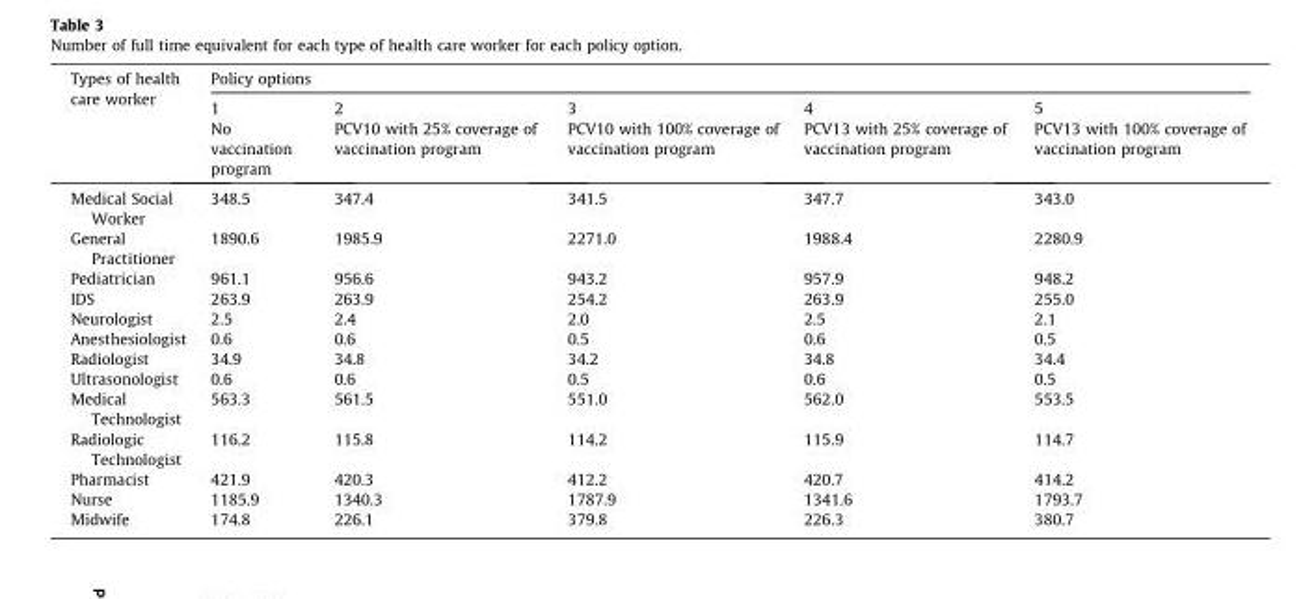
<table><thead><tr><td rowspan="3">Types of health care worker</td><td colspan="5">Policy options</td></tr><tr><td rowspan="2">1 No vaccination program</td><td rowspan="2">2 PCV10 with 25% coverage of vaccination program</td><td rowspan="2">3 PCV10 with 100% coverage of vaccination program</td><td rowspan="2">4 PCV13 with 25% coverage of vaccination program</td><td rowspan="2">5 PCV13 with 100% coverage of vaccination program</td></tr><tr></tr></thead><tbody><tr><td>Medical Social Worker</td><td>348.5</td><td>347.4</td><td>341.5</td><td>347.7</td><td>343.0</td></tr><tr><td>General Practitioner</td><td>1890.6</td><td>1985.9</td><td>2271.0</td><td>1988.4</td><td>2280.9</td></tr><tr><td>Pediatrician</td><td>961.1</td><td>956.6</td><td>943.2</td><td>957.9</td><td>948.2</td></tr><tr><td>IDS</td><td>263.9</td><td>263.9</td><td>254.2</td><td>263.9</td><td>255.0</td></tr><tr><td>Neurologist</td><td>2.5</td><td>2.4</td><td>2.0</td><td>2.5</td><td>2.1</td></tr><tr><td>Anesthesiologist</td><td>0.6</td><td>0.6</td><td>0.5</td><td>0.6</td><td>0.5</td></tr><tr><td>Radiologist</td><td>34.9</td><td>34.8</td><td>34.2</td><td>34.8</td><td>34.4</td></tr><tr><td>Ultrasonologist</td><td>0.6</td><td>0.6</td><td>0.5</td><td>0.6</td><td>0.5</td></tr><tr><td>Medical Technologist</td><td>563.3</td><td>561.5</td><td>551.0</td><td>562.0</td><td>553.5</td></tr><tr><td>Radiologic Technologist</td><td>116.2</td><td>115.8</td><td>114.2</td><td>115.9</td><td>114.7</td></tr><tr><td>Pharmacist</td><td>421.9</td><td>420.3</td><td>412.2</td><td>420.7</td><td>414.2</td></tr><tr><td>Nurse</td><td>1185.9</td><td>1340.3</td><td>1787.9</td><td>1341.6</td><td>1793.7</td></tr><tr><td>Midwife</td><td>174.8</td><td>226.1</td><td>379.8</td><td>226.3</td><td>380.7</td></tr></tbody></table>